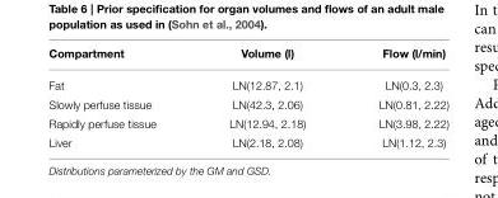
<table><thead><tr><td>Compartment</td><td>Volume (l)</td><td>Flow (l/min)</td></tr></thead><tbody><tr><td>Fat</td><td>LN(12.87, 2.1)</td><td>LN(0.3, 2.3)</td></tr><tr><td>Slowly perfuse tissue</td><td>LN(42.3, 2.06)</td><td>LN(0.81, 2.22)</td></tr><tr><td>Rapidly perfuse tissue</td><td>LN(12.94, 2.18)</td><td>LN(3.98, 2.22)</td></tr><tr><td>Liver</td><td>LN(2.18, 2.08)</td><td>LN(1.12, 2.3)</td></tr></tbody></table>